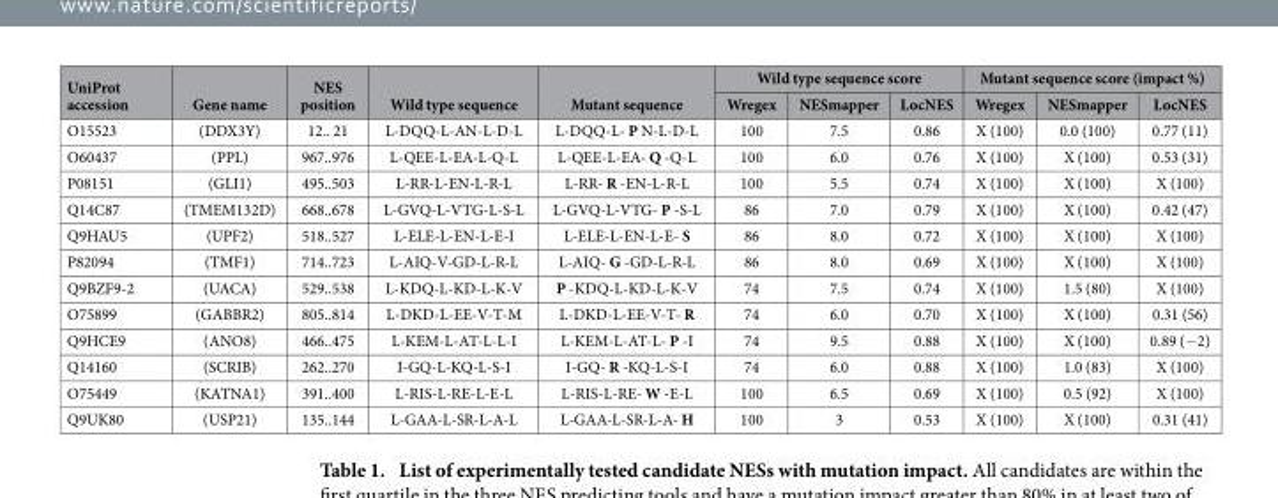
<table><thead><tr><td rowspan="2">UniProt accession</td><td rowspan="2">Gene name</td><td rowspan="2">NES position</td><td rowspan="2">Wild type sequence</td><td rowspan="2">Mutant sequence</td><td colspan="3">Wild type sequence score</td><td colspan="3">Mutant sequence score (impact %)</td></tr><tr><td>Wregex</td><td>NESmapper</td><td>LocNES</td><td>Wregex</td><td>NESmapper</td><td>LocNES</td></tr></thead><tbody><tr><td>O15523</td><td>(DDX3Y)</td><td>12.. 21</td><td>L-DQQ-L-AN-L-D-L</td><td>L-DQQ-L- P N-L-D-L</td><td>100</td><td>7.5</td><td>0.86</td><td>X (100)</td><td>0.0 (100)</td><td>0.77 (11)</td></tr><tr><td>O60437</td><td>(PPL)</td><td>967..976</td><td>L-QEE-L-EA-L-Q-L</td><td>L-QEE-L-EA- Q -Q-L</td><td>100</td><td>6.0</td><td>0.76</td><td>X (100)</td><td>X (100)</td><td>0.53 (31)</td></tr><tr><td>P08151</td><td>(GLI1)</td><td>495..503</td><td>L-RR-L-EN-L-R-L</td><td>L-RR- R -EN-L-R-L</td><td>100</td><td>5.5</td><td>0.74</td><td>X (100)</td><td>X (100)</td><td>X (100)</td></tr><tr><td>Q14C87</td><td>(TMEM132D)</td><td>668..678</td><td>L-GVQ-L-VTG-L-S-L</td><td>L-GVQ-L-VTG- P -S-L</td><td>86</td><td>7.0</td><td>0.79</td><td>X (100)</td><td>X (100)</td><td>0.42 (47)</td></tr><tr><td>Q9HAU5</td><td>(UPF2)</td><td>518..527</td><td>L-ELE-L-EN-L-E-I</td><td>L-ELE-L-EN-L-E- S</td><td>86</td><td>8.0</td><td>0.72</td><td>X (100)</td><td>X (100)</td><td>X (100)</td></tr><tr><td>P82094</td><td>(TMF1)</td><td>714..723</td><td>L-AIQ-V-GD-L-R-L</td><td>L-AIQ- G -GD-L-R-L</td><td>86</td><td>8.0</td><td>0.69</td><td>X (100)</td><td>X (100)</td><td>X (100)</td></tr><tr><td>Q9BZF9-2</td><td>(UACA)</td><td>529..538</td><td>L-KDQ-L-KD-L-K-V</td><td>P -KDQ-L-KD-L-K-V</td><td>74</td><td>7.5</td><td>0.74</td><td>X (100)</td><td>1.5 (80)</td><td>X (100)</td></tr><tr><td>O75899</td><td>(GABBR2)</td><td>805..814</td><td>L-DKD-L-EE-V-T-M</td><td>L-DKD-L-EE-V-T- R</td><td>74</td><td>6.0</td><td>0.70</td><td>X (100)</td><td>X (100)</td><td>0.31 (56)</td></tr><tr><td>Q9HCE9</td><td>(ANO8)</td><td>466..475</td><td>L-KEM-L-AT-L-L-I</td><td>L-KEM-L-AT-L- P -I</td><td>74</td><td>9.5</td><td>0.88</td><td>X (100)</td><td>X (100)</td><td>0.89 (− 2)</td></tr><tr><td>Q14160</td><td>(SCRIB)</td><td>262..270</td><td>I-GQ-L-KQ-L-S-I</td><td>I-GQ- R -KQ-L-S-I</td><td>74</td><td>6.0</td><td>0.88</td><td>X (100)</td><td>1.0 (83)</td><td>X (100)</td></tr><tr><td>O75449</td><td>(KATNA1)</td><td>391..400</td><td>L-RIS-L-RE-L-E-L</td><td>L-RIS-L-RE- W -E-L</td><td>100</td><td>6.5</td><td>0.69</td><td>X (100)</td><td>0.5 (92)</td><td>X (100)</td></tr><tr><td>Q9UK80</td><td>(USP21)</td><td>135..144</td><td>L-GAA-L-SR-L-A-L</td><td>L-GAA-L-SR-L-A- H</td><td>100</td><td>3</td><td>0.53</td><td>X (100)</td><td>X (100)</td><td>0.31 (41)</td></tr></tbody></table>